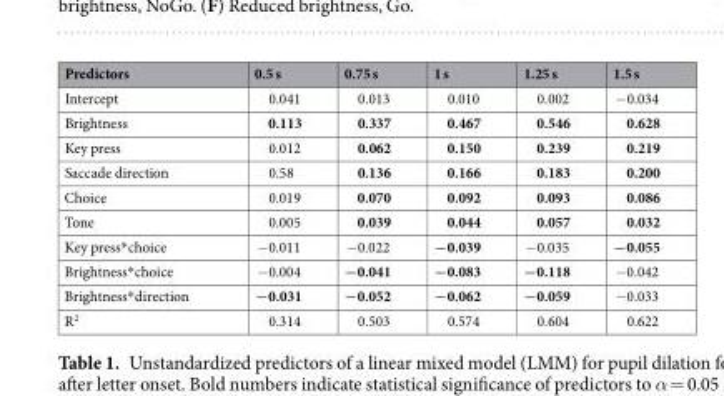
<table><thead><tr><td>Predictors</td><td>0.5 s</td><td>0.75 s</td><td>1 s</td><td>1.25 s</td><td>1.5 s</td></tr></thead><tbody><tr><td>Intercept</td><td>0.041</td><td>0.013</td><td>0.010</td><td>0.002</td><td>−0.034</td></tr><tr><td>Brightness</td><td>0.113</td><td>0.337</td><td>0.467</td><td>0.546</td><td>0.628</td></tr><tr><td>Key press</td><td>0.012</td><td>0.062</td><td>0.150</td><td>0.239</td><td>0.219</td></tr><tr><td>Saccade direction</td><td>0.58</td><td>0.136</td><td>0.166</td><td>0.183</td><td>0.200</td></tr><tr><td>Choice</td><td>0.019</td><td>0.070</td><td>0.092</td><td>0.093</td><td>0.086</td></tr><tr><td>Tone</td><td>0.005</td><td>0.039</td><td>0.044</td><td>0.057</td><td>0.032</td></tr><tr><td>Key press*choice</td><td>−0.011</td><td>−0.022</td><td>−0.039</td><td>−0.035</td><td>−0.055</td></tr><tr><td>Brightness*choice</td><td>−0.004</td><td>−0.041</td><td>−0.083</td><td>−0.118</td><td>−0.042</td></tr><tr><td>Brightness*direction</td><td>−0.031</td><td>−0.052</td><td>−0.062</td><td>−0.059</td><td>−0.033</td></tr><tr><td>R<sup>2</sup></td><td>0.314</td><td>0.503</td><td>0.574</td><td>0.604</td><td>0.622</td></tr></tbody></table>